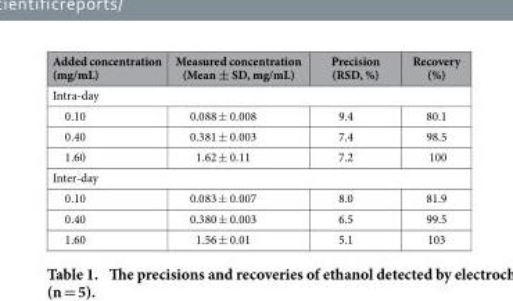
<table><thead><tr><td>Added concentration (mg/mL)</td><td>Measured concentration (Mean ± SD, mg/mL)</td><td>Precision (RSD, %)</td><td>Recovery (%)</td></tr></thead><tbody><tr><td colspan="4">Intra-day</td></tr><tr><td>0.10</td><td>0.088 ± 0.008</td><td>9.4</td><td>80.1</td></tr><tr><td>0.40</td><td>0.381 ± 0.003</td><td>7.4</td><td>98.5</td></tr><tr><td>1.60</td><td>1.62 ± 0.11</td><td>7.2</td><td>100</td></tr><tr><td colspan="4">Inter-day</td></tr><tr><td>0.10</td><td>0.083 ± 0.007</td><td>8.0</td><td>81.9</td></tr><tr><td>0.40</td><td>0.380 ± 0.003</td><td>6.5</td><td>99.5</td></tr><tr><td>1.60</td><td>1.56 ± 0.01</td><td>5.1</td><td>103</td></tr></tbody></table>